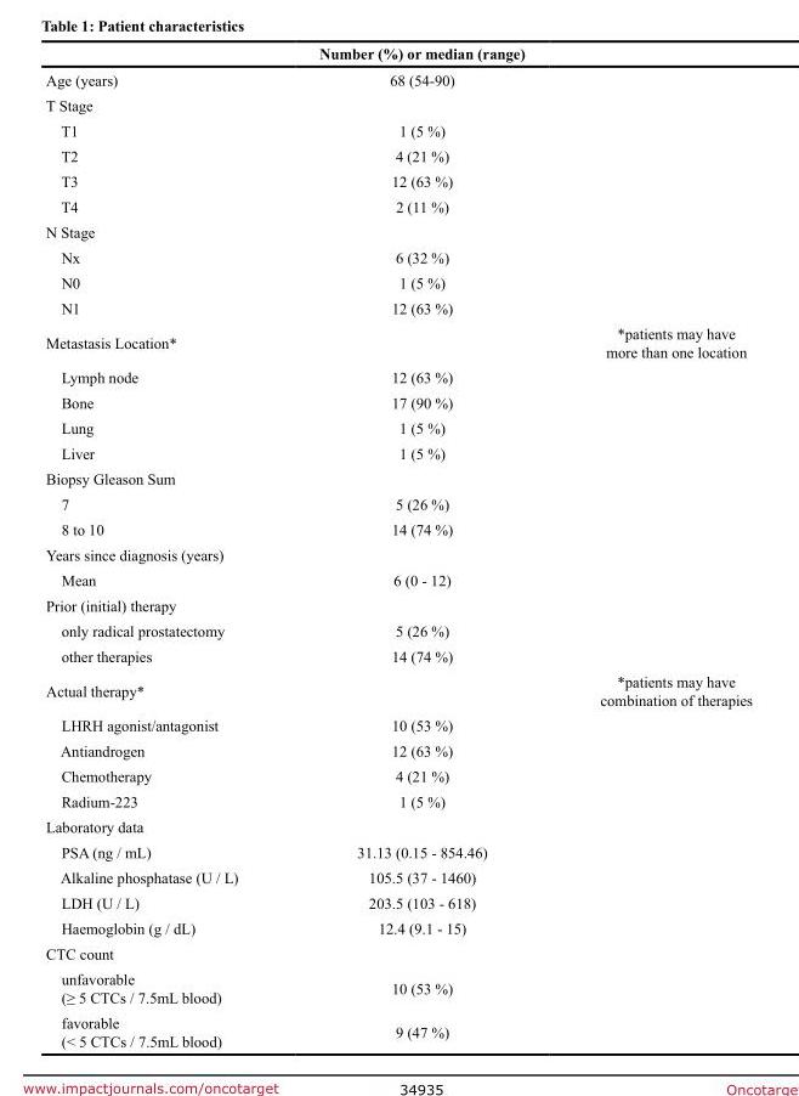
<table><thead><tr><td></td><td>Number (%) or median (range)</td><td></td></tr></thead><tbody><tr><td>Age (years)</td><td>68 (54-90)</td><td></td></tr><tr><td colspan="3">T Stage</td></tr><tr><td>T1</td><td>1 (5 %)</td><td></td></tr><tr><td>T2</td><td>4 (21 %)</td><td></td></tr><tr><td>T3</td><td>12 (63 %)</td><td></td></tr><tr><td>T4</td><td>2 (11 %)</td><td></td></tr><tr><td colspan="3">N Stage</td></tr><tr><td>Nx</td><td>6 (32 %)</td><td></td></tr><tr><td>N0</td><td>1 (5 %)</td><td></td></tr><tr><td>N1</td><td>12 (63 %)</td><td></td></tr><tr><td>Metastasis Location*</td><td></td><td>*patients may have more than one location</td></tr><tr><td>Lymph node</td><td>12 (63 %)</td><td></td></tr><tr><td>Bone</td><td>17 (90 %)</td><td></td></tr><tr><td>Lung</td><td>1 (5 %)</td><td></td></tr><tr><td>Liver</td><td>1 (5 %)</td><td></td></tr><tr><td colspan="3">Biopsy Gleason Sum</td></tr><tr><td>7</td><td>5 (26 %)</td><td></td></tr><tr><td>8 to 10</td><td>14 (74 %)</td><td></td></tr><tr><td colspan="3">Years since diagnosis (years)</td></tr><tr><td>Mean</td><td>6 (0 - 12)</td><td></td></tr><tr><td colspan="3">Prior (initial) therapy</td></tr><tr><td>only radical prostatectomy</td><td>5 (26 %)</td><td></td></tr><tr><td>other therapies</td><td>14 (74 %)</td><td></td></tr><tr><td>Actual therapy*</td><td></td><td>*patients may have combination of therapies</td></tr><tr><td>LHRH agonist/antagonist</td><td>10 (53 %)</td><td></td></tr><tr><td>Antiandrogen</td><td>12 (63 %)</td><td></td></tr><tr><td>Chemotherapy</td><td>4 (21 %)</td><td></td></tr><tr><td>Radium-223</td><td>1 (5 %)</td><td></td></tr><tr><td colspan="3">Laboratory data</td></tr><tr><td>PSA (ng / mL)</td><td>31.13 (0.15 - 854.46)</td><td></td></tr><tr><td>Alkaline phosphatase (U / L)</td><td>105.5 (37 - 1460)</td><td></td></tr><tr><td>LDH (U / L)</td><td>203.5 (103 - 618)</td><td></td></tr><tr><td>Haemoglobin (g / dL)</td><td>12.4 (9.1 - 15)</td><td></td></tr><tr><td colspan="3">CTC count</td></tr><tr><td>unfavorable (≥ 5 CTCs / 7.5mL blood)</td><td>10 (53 %)</td><td></td></tr><tr><td>favorable (&lt; 5 CTCs / 7.5mL blood)</td><td>9 (47 %)</td><td></td></tr></tbody></table>